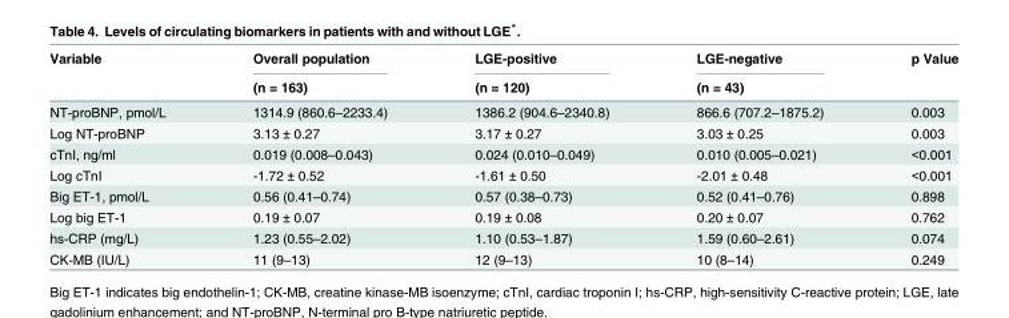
<table><thead><tr><td rowspan="2">Variable</td><td rowspan="2">Overall population (n = 163)</td><td rowspan="2">LGE-positive (n = 120)</td><td rowspan="2">LGE-negative (n = 43)</td><td rowspan="2">p Value</td></tr><tr></tr></thead><tbody><tr><td>NT-proBNP, pmol/L</td><td>1314.9 (860.6–2233.4)</td><td>1386.2 (904.6–2340.8)</td><td>866.6 (707.2–1875.2)</td><td>0.003</td></tr><tr><td>Log NT-proBNP</td><td>3.13 ± 0.27</td><td>3.17 ± 0.27</td><td>3.03 ± 0.25</td><td>0.003</td></tr><tr><td>cTnI, ng/ml</td><td>0.019 (0.008–0.043)</td><td>0.024 (0.010–0.049)</td><td>0.010 (0.005–0.021)</td><td>&lt;0.001</td></tr><tr><td>Log cTnI</td><td>-1.72 ± 0.52</td><td>-1.61 ± 0.50</td><td>-2.01 ± 0.48</td><td>&lt;0.001</td></tr><tr><td>Big ET-1, pmol/L</td><td>0.56 (0.41–0.74)</td><td>0.57 (0.38–0.73)</td><td>0.52 (0.41–0.76)</td><td>0.898</td></tr><tr><td>Log big ET-1</td><td>0.19 ± 0.07</td><td>0.19 ± 0.08</td><td>0.20 ± 0.07</td><td>0.762</td></tr><tr><td>hs-CRP (mg/L)</td><td>1.23 (0.55–2.02)</td><td>1.10 (0.53–1.87)</td><td>1.59 (0.60–2.61)</td><td>0.074</td></tr><tr><td>CK-MB (IU/L)</td><td>11 (9–13)</td><td>12 (9–13)</td><td>10 (8–14)</td><td>0.249</td></tr></tbody></table>